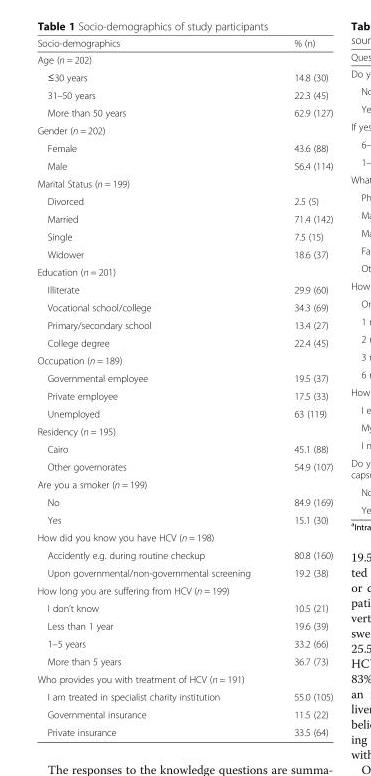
<table><thead><tr><td>Socio-demographics</td><td>% (n)</td></tr></thead><tbody><tr><td colspan="2">Age (n = 202)</td></tr><tr><td>≤30 years</td><td>14.8 (30)</td></tr><tr><td>31–50 years</td><td>22.3 (45)</td></tr><tr><td>More than 50 years</td><td>62.9 (127)</td></tr><tr><td colspan="2">Gender (n = 202)</td></tr><tr><td>Female</td><td>43.6 (88)</td></tr><tr><td>Male</td><td>56.4 (114)</td></tr><tr><td colspan="2">Marital Status (n = 199)</td></tr><tr><td>Divorced</td><td>2.5 (5)</td></tr><tr><td>Married</td><td>71.4 (142)</td></tr><tr><td>Single</td><td>7.5 (15)</td></tr><tr><td>Widower</td><td>18.6 (37)</td></tr><tr><td colspan="2">Education (n = 201)</td></tr><tr><td>Illiterate</td><td>29.9 (60)</td></tr><tr><td>Vocational school/college</td><td>34.3 (69)</td></tr><tr><td>Primary/secondary school</td><td>13.4 (27)</td></tr><tr><td>College degree</td><td>22.4 (45)</td></tr><tr><td colspan="2">Occupation (n = 189)</td></tr><tr><td>Governmental employee</td><td>19.5 (37)</td></tr><tr><td>Private employee</td><td>17.5 (33)</td></tr><tr><td>Unemployed</td><td>63 (119)</td></tr><tr><td colspan="2">Residency (n = 195)</td></tr><tr><td>Cairo</td><td>45.1 (88)</td></tr><tr><td>Other governorates</td><td>54.9 (107)</td></tr><tr><td colspan="2">Are you a smoker (n = 199)</td></tr><tr><td>No</td><td>84.9 (169)</td></tr><tr><td>Yes</td><td>15.1 (30)</td></tr><tr><td colspan="2">How did you know you have HCV (n = 198)</td></tr><tr><td>Accidently e.g. during routine checkup</td><td>80.8 (160)</td></tr><tr><td>Upon governmental/non-governmental screening</td><td>19.2 (38)</td></tr><tr><td colspan="2">How long you are suffering from HCV (n = 199)</td></tr><tr><td>I don’t know</td><td>10.5 (21)</td></tr><tr><td>Less than 1 year</td><td>19.6 (39)</td></tr><tr><td>1–5 years</td><td>33.2 (66)</td></tr><tr><td>More than 5 years</td><td>36.7 (73)</td></tr><tr><td colspan="2">Who provides you with treatment of HCV (n = 191)</td></tr><tr><td>I am treated in specialist charity institution</td><td>55.0 (105)</td></tr><tr><td>Governmental insurance</td><td>11.5 (22)</td></tr><tr><td>Private insurance</td><td>33.5 (64)</td></tr></tbody></table>